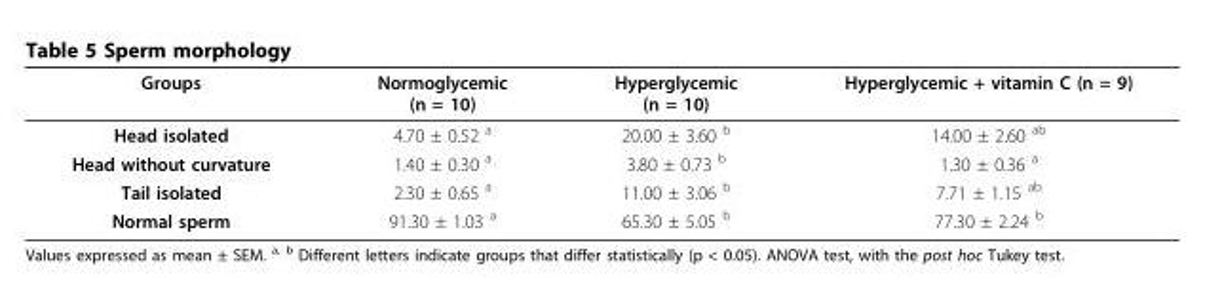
<table><thead><tr><td>Groups</td><td>Normoglycemic (n = 10)</td><td>Hyperglycemic (n = 10)</td><td>Hyperglycemic + vitamin C (n = 9)</td></tr></thead><tbody><tr><td>Head isolated</td><td>4.70 ± 0.52 <sup>a</sup></td><td>20.00 ± 3.60 <sup>b</sup></td><td>14.00 ± 2.60 <sup>ab</sup></td></tr><tr><td>Head without curvature</td><td>1.40 ± 0.30 <sup>a</sup></td><td>3.80 ± 0.73 <sup>b</sup></td><td>1.30 ± 0.36 <sup>a</sup></td></tr><tr><td>Tail isolated</td><td>2.30 ± 0.65 <sup>a</sup></td><td>11.00 ± 3.06 <sup>b</sup></td><td>7.71 ± 1.15 <sup>ab</sup></td></tr><tr><td>Normal sperm</td><td>91.30 ± 1.03 <sup>a</sup></td><td>65.30 ± 5.05 <sup>b</sup></td><td>77.30 ± 2.24 <sup>b</sup></td></tr></tbody></table>